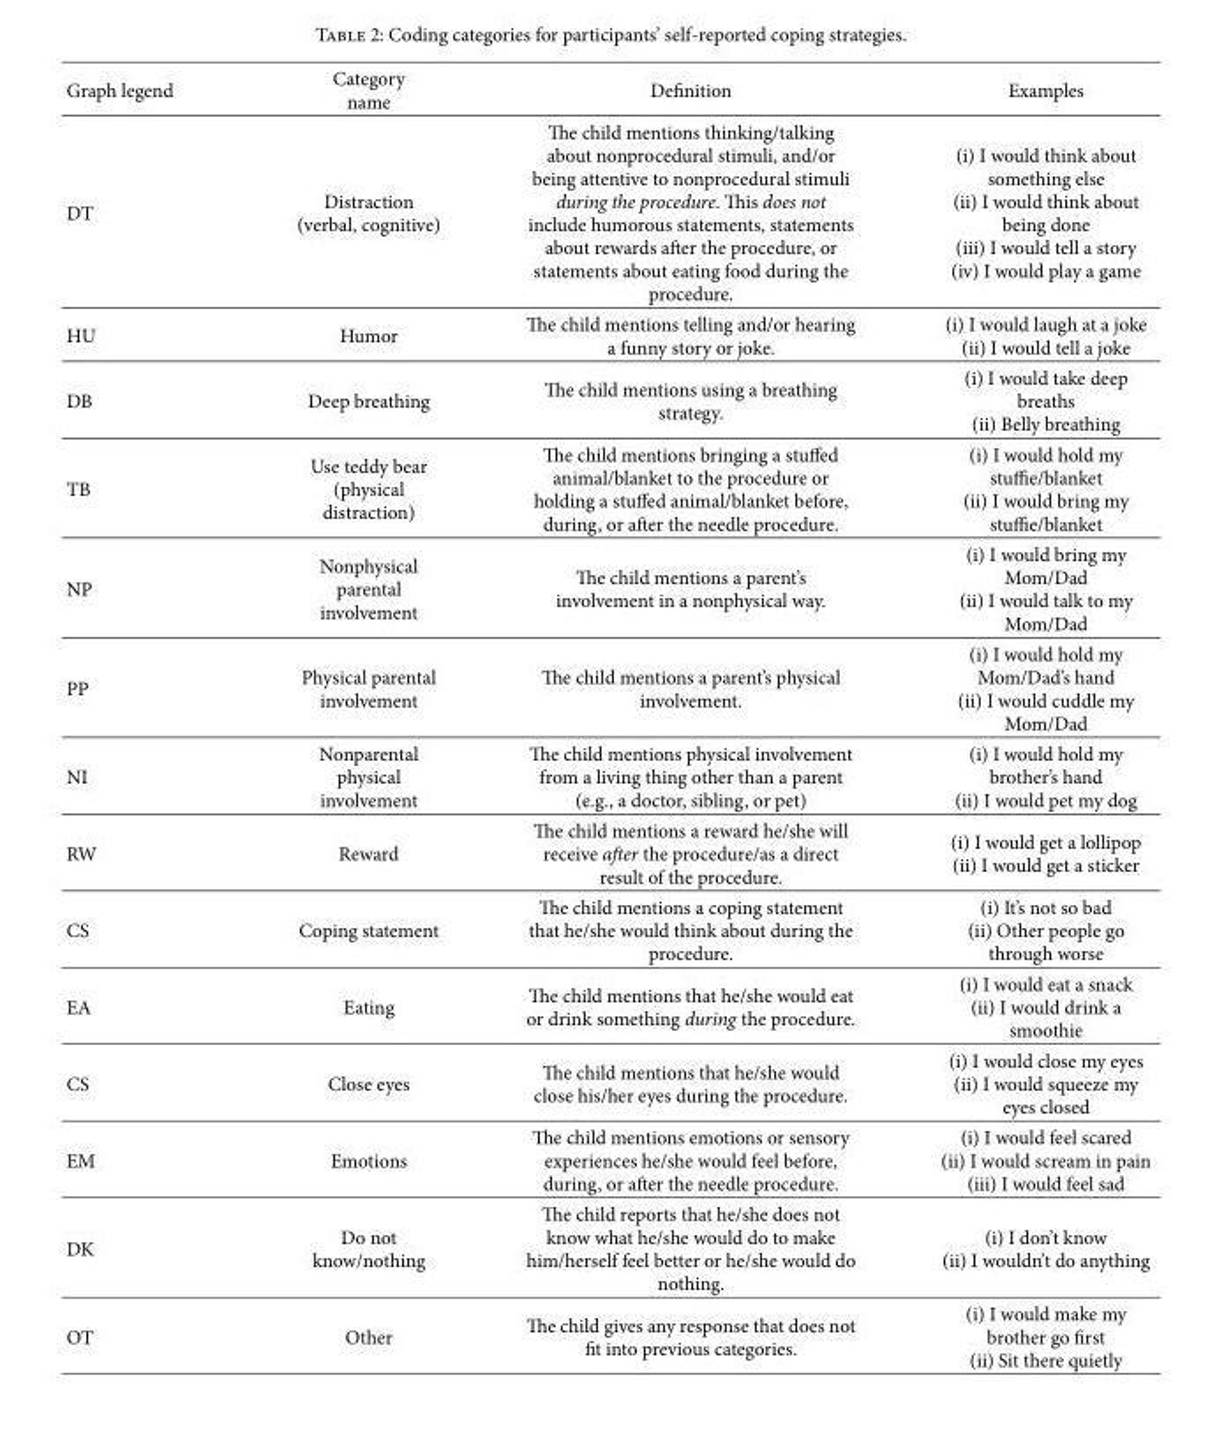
<table><thead><tr><td>Graph legend</td><td>Category name</td><td>Definition</td><td>Examples</td></tr></thead><tbody><tr><td>DT</td><td>Distraction (verbal, cognitive)</td><td>The child mentions thinking/talking about nonprocedural stimuli, and/or being attentive to nonprocedural stimuli during the procedure. This does not include humorous statements, statements about rewards after the procedure, or statements about eating food during the procedure.</td><td>(i) I would think about something else (ii) I would think about being done (iii) I would tell a story (iv) I would play a game</td></tr><tr><td>HU</td><td>Humor</td><td>The child mentions telling and/or hearing a funny story or joke.</td><td>(i) I would laugh at a joke (ii) I would tell a joke</td></tr><tr><td>DB</td><td>Deep breathing</td><td>The child mentions using a breathing strategy.</td><td>(i) I would take deep breaths (ii) Belly breathing</td></tr><tr><td>TB</td><td>Use teddy bear (physical distraction)</td><td>The child mentions bringing a stuffed animal/blanket to the procedure or holding a stuffed animal/blanket before, during, or after the needle procedure.</td><td>(i) I would hold my stuffie/blanket (ii) I would bring my stuffie/blanket</td></tr><tr><td>NP</td><td>Nonphysical parental involvement</td><td>The child mentions a parent’s involvement in a nonphysical way.</td><td>(i) I would bring my Mom/Dad (ii) I would talk to my Mom/Dad</td></tr><tr><td>PP</td><td>Physical parental involvement</td><td>The child mentions a parent’s physical involvement.</td><td>(i) I would hold my Mom/Dad’s hand (ii) I would cuddle my Mom/Dad</td></tr><tr><td>NI</td><td>Nonparental physical involvement</td><td>The child mentions physical involvement from a living thing other than a parent (e.g., a doctor, sibling, or pet)</td><td>(i) I would hold my brother’s hand (ii) I would pet my dog</td></tr><tr><td>RW</td><td>Reward</td><td>The child mentions a reward he/she will receive after the procedure/as a direct result of the procedure.</td><td>(i) I would get a lollipop (ii) I would get a sticker</td></tr><tr><td>CS</td><td>Coping statement</td><td>The child mentions a coping statement that he/she would think about during the procedure.</td><td>(i) It’s not so bad (ii) Other people go through worse</td></tr><tr><td>EA</td><td>Eating</td><td>The child mentions that he/she would eat or drink something during the procedure.</td><td>(i) I would eat a snack (ii) I would drink a smoothie</td></tr><tr><td>CS</td><td>Close eyes</td><td>The child mentions that he/she would close his/her eyes during the procedure.</td><td>(i) I would close my eyes (ii) I would squeeze my eyes closed</td></tr><tr><td>EM</td><td>Emotions</td><td>The child mentions emotions or sensory experiences he/she would feel before, during, or after the needle procedure.</td><td>(i) I would feel scared (ii) I would scream in pain (iii) I would feel sad</td></tr><tr><td>DK</td><td>Do not know/nothing</td><td>The child reports that he/she does not know what he/she would do to make him/herself feel better or he/she would do nothing.</td><td>(i) I don’t know (ii) I wouldn’t do anything</td></tr><tr><td>OT</td><td>Other</td><td>The child gives any response that does not fit into previous categories.</td><td>(i) I would make my brother go first (ii) Sit there quietly</td></tr></tbody></table>